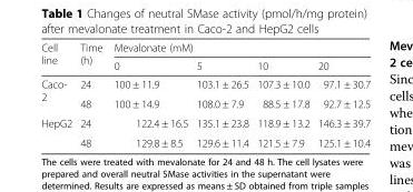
<table><thead><tr><td rowspan="2">Cell line</td><td rowspan="2">Time (h)</td><td colspan="4">Mevalonate (mM)</td></tr><tr><td>0</td><td>5</td><td>10</td><td>20</td></tr></thead><tbody><tr><td rowspan="2">Caco- 2</td><td>24</td><td>100 ± 11.9</td><td>103.1 ± 26.5</td><td>107.3 ± 10.0</td><td>97.1 ± 30.7</td></tr><tr><td>48</td><td>100 ± 14.9</td><td>108.0 ± 7.9</td><td>88.5 ± 17.8</td><td>92.7 ± 12.5</td></tr><tr><td rowspan="2">HepG2</td><td>24</td><td>122.4 ± 16.5</td><td>135.1 ± 23.8</td><td>118.9 ± 13.2</td><td>146.3 ± 39.7</td></tr><tr><td>48</td><td>129.8 ± 8.5</td><td>129.6 ± 11.4</td><td>121.5 ± 7.9</td><td>125.1 ± 10.4</td></tr></tbody></table>